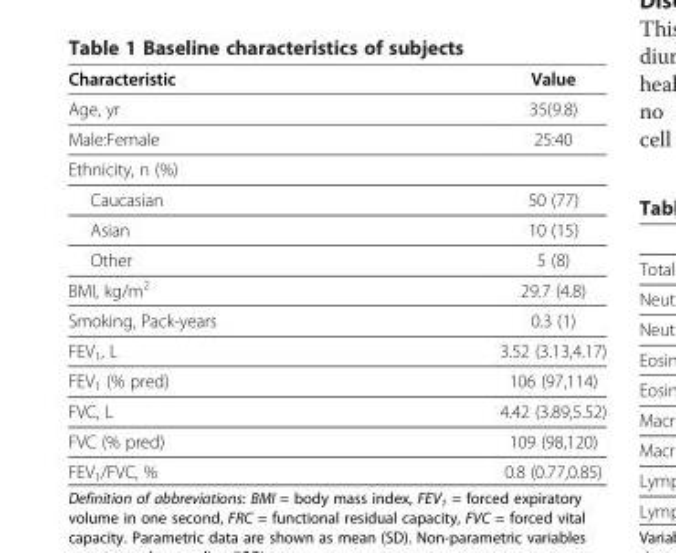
<table><thead><tr><td>Characteristic</td><td>Value</td></tr></thead><tbody><tr><td>Age, yr</td><td>35(9.8)</td></tr><tr><td>Male:Female</td><td>25:40</td></tr><tr><td colspan="2">Ethnicity, n (%)</td></tr><tr><td>Caucasian</td><td>50 (77)</td></tr><tr><td>Asian</td><td>10 (15)</td></tr><tr><td>Other</td><td>5 (8)</td></tr><tr><td>BMI, kg/m<sup>2</sup></td><td>29.7 (4.8)</td></tr><tr><td>Smoking, Pack-years</td><td>0.3 (1)</td></tr><tr><td>FEV<sub>1</sub>, L</td><td>3.52 (3.13,4.17)</td></tr><tr><td>FEV<sub>1</sub> (% pred)</td><td>106 (97,114)</td></tr><tr><td>FVC, L</td><td>4.42 (3.89,5.52)</td></tr><tr><td>FVC (% pred)</td><td>109 (98,120)</td></tr><tr><td>FEV<sub>1</sub>/FVC, %</td><td>0.8 (0.77,0.85)</td></tr></tbody></table>